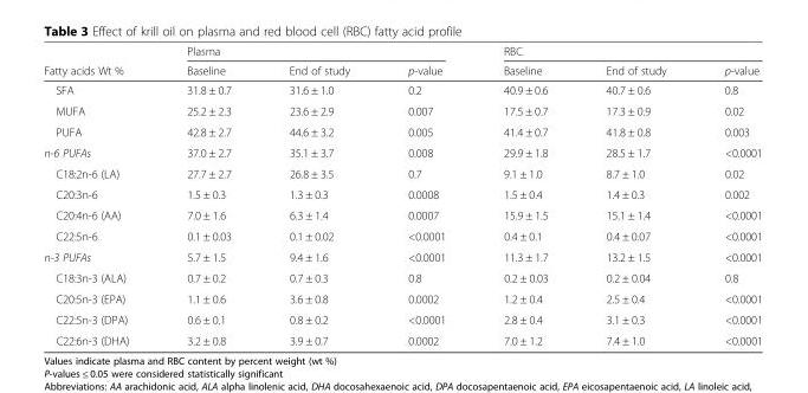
<table><thead><tr><td rowspan="2">Fatty acids Wt %</td><td colspan="3">Plasma</td><td colspan="3">RBC</td></tr><tr><td>Baseline</td><td>End of study</td><td>p-value</td><td>Baseline</td><td>End of study</td><td>p-value</td></tr></thead><tbody><tr><td>SFA</td><td>31.8 ± 0.7</td><td>31.6 ± 1.0</td><td>0.2</td><td>40.9 ± 0.6</td><td>40.7 ± 0.6</td><td>0.8</td></tr><tr><td>MUFA</td><td>25.2 ± 2.3</td><td>23.6 ± 2.9</td><td>0.007</td><td>17.5 ± 0.7</td><td>17.3 ± 0.9</td><td>0.02</td></tr><tr><td>PUFA</td><td>42.8 ± 2.7</td><td>44.6 ± 3.2</td><td>0.005</td><td>41.4 ± 0.7</td><td>41.8 ± 0.8</td><td>0.003</td></tr><tr><td>n-6 PUFAs</td><td>37.0 ± 2.7</td><td>35.1 ± 3.7</td><td>0.008</td><td>29.9 ± 1.8</td><td>28.5 ± 1.7</td><td>&lt;0.0001</td></tr><tr><td>C18:2n-6 (LA)</td><td>27.7 ± 2.7</td><td>26.8 ± 3.5</td><td>0.7</td><td>9.1 ± 1.0</td><td>8.7 ± 1.0</td><td>0.02</td></tr><tr><td>C20:3n-6</td><td>1.5 ± 0.3</td><td>1.3 ± 0.3</td><td>0.0008</td><td>1.5 ± 0.4</td><td>1.4 ± 0.3</td><td>0.002</td></tr><tr><td>C20:4n-6 (AA)</td><td>7.0 ± 1.6</td><td>6.3 ± 1.4</td><td>0.0007</td><td>15.9 ± 1.5</td><td>15.1 ± 1.4</td><td>&lt;0.0001</td></tr><tr><td>C22:5n-6</td><td>0.1 ± 0.03</td><td>0.1 ± 0.02</td><td>&lt;0.0001</td><td>0.4 ± 0.1</td><td>0.4 ± 0.07</td><td>&lt;0.0001</td></tr><tr><td>n-3 PUFAs</td><td>5.7 ± 1.5</td><td>9.4 ± 1.6</td><td>&lt;0.0001</td><td>11.3 ± 1.7</td><td>13.2 ± 1.5</td><td>&lt;0.0001</td></tr><tr><td>C18:3n-3 (ALA)</td><td>0.7 ± 0.2</td><td>0.7 ± 0.3</td><td>0.8</td><td>0.2 ± 0.03</td><td>0.2 ± 0.04</td><td>0.8</td></tr><tr><td>C20:5n-3 (EPA)</td><td>1.1 ± 0.6</td><td>3.6 ± 0.8</td><td>0.0002</td><td>1.2 ± 0.4</td><td>2.5 ± 0.4</td><td>&lt;0.0001</td></tr><tr><td>C22:5n-3 (DPA)</td><td>0.6 ± 0.1</td><td>0.8 ± 0.2</td><td>&lt;0.0001</td><td>2.8 ± 0.4</td><td>3.1 ± 0.3</td><td>&lt;0.0001</td></tr><tr><td>C22:6n-3 (DHA)</td><td>3.2 ± 0.8</td><td>3.9 ± 0.7</td><td>0.0002</td><td>7.0 ± 1.2</td><td>7.4 ± 1.0</td><td>&lt;0.0001</td></tr></tbody></table>